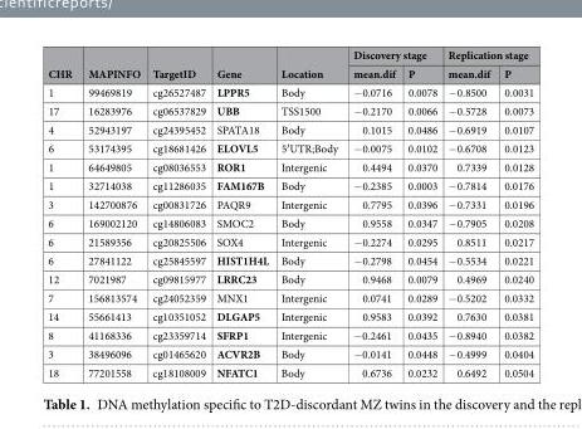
<table><thead><tr><td rowspan="2">CHR</td><td rowspan="2">MAPINFO</td><td rowspan="2">TargetID</td><td rowspan="2">Gene</td><td rowspan="2">Location</td><td colspan="2">Discovery stage</td><td colspan="2">Replication stage</td></tr><tr><td>mean.dif</td><td>P</td><td>mean.dif</td><td>P</td></tr></thead><tbody><tr><td>1</td><td>99469819</td><td>cg26527487</td><td>LPPR5</td><td>Body</td><td>−0.0716</td><td>0.0078</td><td>−0.8500</td><td>0.0031</td></tr><tr><td>17</td><td>16283976</td><td>cg06537829</td><td>UBB</td><td>TSS1500</td><td>−0.2170</td><td>0.0066</td><td>−0.5728</td><td>0.0073</td></tr><tr><td>4</td><td>52943197</td><td>cg24395452</td><td>SPATA18</td><td>Body</td><td>0.1015</td><td>0.0486</td><td>−0.6919</td><td>0.0107</td></tr><tr><td>6</td><td>53174395</td><td>cg18681426</td><td>ELOVL5</td><td>5′UTR;Body</td><td>−0.0075</td><td>0.0102</td><td>−0.6708</td><td>0.0123</td></tr><tr><td>1</td><td>64649805</td><td>cg08036553</td><td>ROR1</td><td>Intergenic</td><td>0.4494</td><td>0.0370</td><td>0.7339</td><td>0.0128</td></tr><tr><td>1</td><td>32714038</td><td>cg11286035</td><td>FAM167B</td><td>Body</td><td>−0.2385</td><td>0.0003</td><td>−0.7814</td><td>0.0176</td></tr><tr><td>3</td><td>142700876</td><td>cg00831726</td><td>PAQR9</td><td>Intergenic</td><td>0.7795</td><td>0.0396</td><td>−0.7331</td><td>0.0196</td></tr><tr><td>6</td><td>169002120</td><td>cg14806083</td><td>SMOC2</td><td>Body</td><td>0.9558</td><td>0.0347</td><td>−0.7905</td><td>0.0208</td></tr><tr><td>6</td><td>21589356</td><td>cg20825506</td><td>SOX4</td><td>Intergenic</td><td>−0.2274</td><td>0.0295</td><td>0.8511</td><td>0.0217</td></tr><tr><td>6</td><td>27841122</td><td>cg25845597</td><td>HIST1H4L</td><td>Body</td><td>−0.2798</td><td>0.0454</td><td>−0.5534</td><td>0.0221</td></tr><tr><td>12</td><td>7021987</td><td>cg09815977</td><td>LRRC23</td><td>Body</td><td>0.9468</td><td>0.0079</td><td>0.4969</td><td>0.0240</td></tr><tr><td>7</td><td>156813574</td><td>cg24052359</td><td>MNX1</td><td>Intergenic</td><td>0.0741</td><td>0.0289</td><td>−0.5202</td><td>0.0332</td></tr><tr><td>14</td><td>55661413</td><td>cg10351052</td><td>DLGAP5</td><td>Intergenic</td><td>0.9583</td><td>0.0392</td><td>0.7630</td><td>0.0381</td></tr><tr><td>8</td><td>41168336</td><td>cg23359714</td><td>SFRP1</td><td>Intergenic</td><td>−0.2461</td><td>0.0435</td><td>−0.8940</td><td>0.0382</td></tr><tr><td>3</td><td>38496096</td><td>cg01465620</td><td>ACVR2B</td><td>Body</td><td>−0.0141</td><td>0.0448</td><td>−0.4999</td><td>0.0404</td></tr><tr><td>18</td><td>77201558</td><td>cg18108009</td><td>NFATC1</td><td>Body</td><td>0.6736</td><td>0.0232</td><td>0.6492</td><td>0.0504</td></tr></tbody></table>